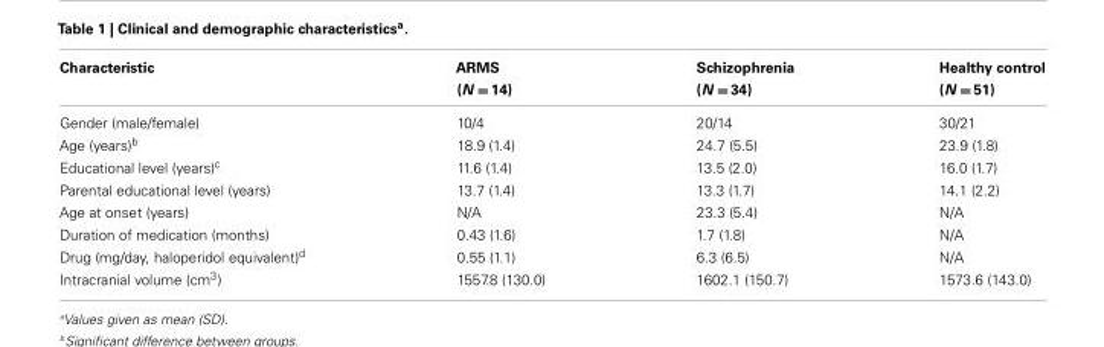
<table><thead><tr><td>Characteristic</td><td>ARMS (N = 14)</td><td>Schizophrenia (N = 34)</td><td>Healthy control (N = 51)</td></tr></thead><tbody><tr><td>Gender (male/female)</td><td>10/4</td><td>20/14</td><td>30/21</td></tr><tr><td>Age (years)<sup>b</sup></td><td>18.9 (1.4)</td><td>24.7 (5.5)</td><td>23.9 (1.8)</td></tr><tr><td>Educational level (years)<sup>c</sup></td><td>11.6 (1.4)</td><td>13.5 (2.0)</td><td>16.0 (1.7)</td></tr><tr><td>Parental educational level (years)</td><td>13.7 (1.4)</td><td>13.3 (1.7)</td><td>14.1 (2.2)</td></tr><tr><td>Age at onset (years)</td><td>N/A</td><td>23.3 (5.4)</td><td>N/A</td></tr><tr><td>Duration of medication (months)</td><td>0.43 (1.6)</td><td>1.7 (1.8)</td><td>N/A</td></tr><tr><td>Drug (mg/day, haloperidol equivalent)<sup>d</sup></td><td>0.55 (1.1)</td><td>6.3 (6.5)</td><td>N/A</td></tr><tr><td>Intracranial volume (cm<sup>3</sup>)</td><td>1557.8 (130.0)</td><td>1602.1 (150.7)</td><td>1573.6 (143.0)</td></tr></tbody></table>